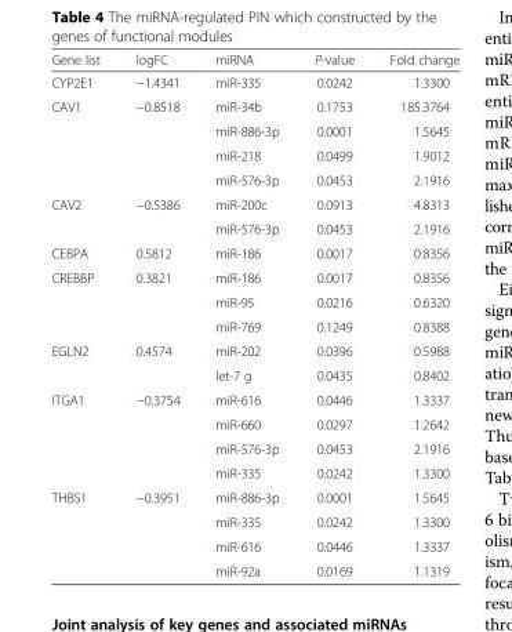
<table><thead><tr><td>Gene list</td><td>logFC</td><td>miRNA</td><td>P-value</td><td>Fold change</td></tr></thead><tbody><tr><td>CYP2E1</td><td>−1.4341</td><td>miR-335</td><td>0.0242</td><td>1.3300</td></tr><tr><td rowspan="4">CAV1</td><td rowspan="4">−0.8518</td><td>miR-34b</td><td>0.1753</td><td>185.3764</td></tr><tr><td>miR-886-3p</td><td>0.0001</td><td>1.5645</td></tr><tr><td>miR-218</td><td>0.0499</td><td>1.9012</td></tr><tr><td>miR-576-3p</td><td>0.0453</td><td>2.1916</td></tr><tr><td rowspan="2">CAV2</td><td rowspan="2">−0.5386</td><td>miR-200c</td><td>0.0913</td><td>4.8313</td></tr><tr><td>miR-576-3p</td><td>0.0453</td><td>2.1916</td></tr><tr><td>CEBPA</td><td>0.5812</td><td>miR-186</td><td>0.0017</td><td>0.8356</td></tr><tr><td rowspan="3">CREBBP</td><td rowspan="3">0.3821</td><td>miR-186</td><td>0.0017</td><td>0.8356</td></tr><tr><td>miR-95</td><td>0.0216</td><td>0.6320</td></tr><tr><td>miR-769</td><td>0.1249</td><td>0.8388</td></tr><tr><td rowspan="2">EGLN2</td><td rowspan="2">0.4574</td><td>miR-202</td><td>0.0396</td><td>0.5988</td></tr><tr><td>let-7 g</td><td>0.0435</td><td>0.8402</td></tr><tr><td rowspan="4">ITGA1</td><td rowspan="4">−0.3754</td><td>miR-616</td><td>0.0446</td><td>1.3337</td></tr><tr><td>miR-660</td><td>0.0297</td><td>1.2642</td></tr><tr><td>miR-576-3p</td><td>0.0453</td><td>2.1916</td></tr><tr><td>miR-335</td><td>0.0242</td><td>1.3300</td></tr><tr><td rowspan="4">THBS1</td><td rowspan="4">−0.3951</td><td>miR-886-3p</td><td>0.0001</td><td>1.5645</td></tr><tr><td>miR-335</td><td>0.0242</td><td>1.3300</td></tr><tr><td>miR-616</td><td>0.0446</td><td>1.3337</td></tr><tr><td>miR-92a</td><td>0.0169</td><td>1.1319</td></tr></tbody></table>